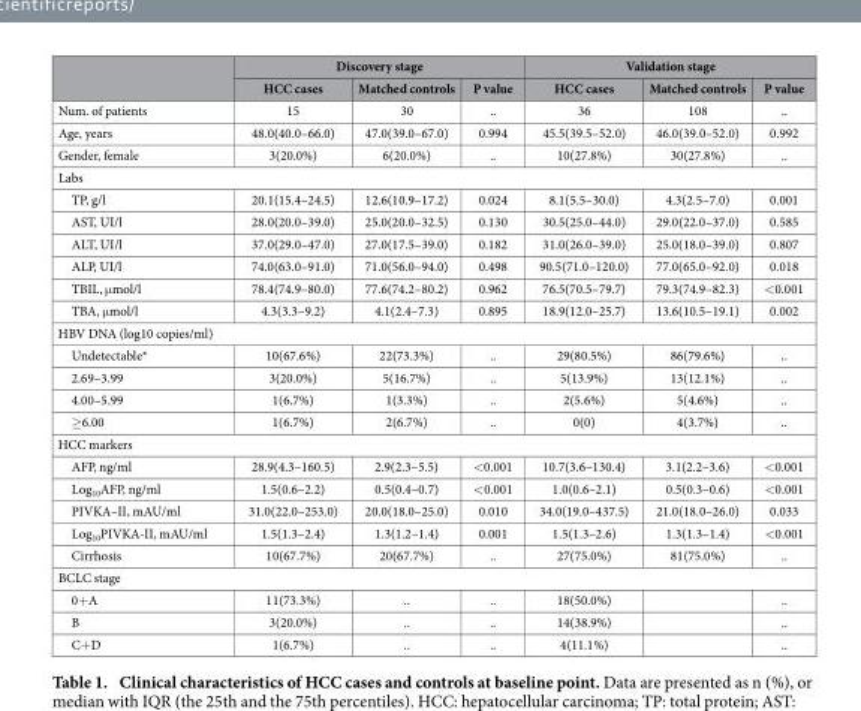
<table><thead><tr><td rowspan="2"></td><td colspan="3">Discovery stage</td><td colspan="3">Validation stage</td></tr><tr><td>HCC cases</td><td>Matched controls</td><td>P value</td><td>HCC cases</td><td>Matched controls</td><td>P value</td></tr></thead><tbody><tr><td>Num. of patients</td><td>15</td><td>30</td><td>..</td><td>36</td><td>108</td><td>..</td></tr><tr><td>Age, years</td><td>48.0(40.0–66.0)</td><td>47.0(39.0–67.0)</td><td>0.994</td><td>45.5(39.5–52.0)</td><td>46.0(39.0–52.0)</td><td>0.992</td></tr><tr><td>Gender, female</td><td>3(20.0%)</td><td>6(20.0%)</td><td>..</td><td>10(27.8%)</td><td>30(27.8%)</td><td>..</td></tr><tr><td colspan="7">Labs</td></tr><tr><td>TP, g/l</td><td>20.1(15.4–24.5)</td><td>12.6(10.9–17.2)</td><td>0.024</td><td>8.1(5.5–30.0)</td><td>4.3(2.5–7.0)</td><td>0.001</td></tr><tr><td>AST, UI/l</td><td>28.0(20.0–39.0)</td><td>25.0(20.0–32.5)</td><td>0.130</td><td>30.5(25.0–44.0)</td><td>29.0(22.0–37.0)</td><td>0.585</td></tr><tr><td>ALT, UI/l</td><td>37.0(29.0–47.0)</td><td>27.0(17.5–39.0)</td><td>0.182</td><td>31.0(26.0–39.0)</td><td>25.0(18.0–39.0)</td><td>0.807</td></tr><tr><td>ALP, UI/l</td><td>74.0(63.0–91.0)</td><td>71.0(56.0–94.0)</td><td>0.498</td><td>90.5(71.0–120.0)</td><td>77.0(65.0–92.0)</td><td>0.018</td></tr><tr><td>TBIL, μ mol/l</td><td>78.4(74.9–80.0)</td><td>77.6(74.2–80.2)</td><td>0.962</td><td>76.5(70.5–79.7)</td><td>79.3(74.9–82.3)</td><td>&lt; 0.001</td></tr><tr><td>TBA, μ mol/l</td><td>4.3(3.3–9.2)</td><td>4.1(2.4–7.3)</td><td>0.895</td><td>18.9(12.0–25.7)</td><td>13.6(10.5–19.1)</td><td>0.002</td></tr><tr><td colspan="7">HBV DNA (log10 copies/ml)</td></tr><tr><td>Undetectable*</td><td>10(67.6%)</td><td>22(73.3%)</td><td>..</td><td>29(80.5%)</td><td>86(79.6%)</td><td>..</td></tr><tr><td>2.69–3.99</td><td>3(20.0%)</td><td>5(16.7%)</td><td>..</td><td>5(13.9%)</td><td>13(12.1%)</td><td>..</td></tr><tr><td>4.00–5.99</td><td>1(6.7%)</td><td>1(3.3%)</td><td>..</td><td>2(5.6%)</td><td>5(4.6%)</td><td>..</td></tr><tr><td>≥ 6.00</td><td>1(6.7%)</td><td>2(6.7%)</td><td>..</td><td>0(0)</td><td>4(3.7%)</td><td>..</td></tr><tr><td colspan="7">HCC markers</td></tr><tr><td>AFP, ng/ml</td><td>28.9(4.3–160.5)</td><td>2.9(2.3–5.5)</td><td>&lt; 0.001</td><td>10.7(3.6–130.4)</td><td>3.1(2.2–3.6)</td><td>&lt; 0.001</td></tr><tr><td>Log<sub>10</sub>AFP, ng/ml</td><td>1.5(0.6–2.2)</td><td>0.5(0.4–0.7)</td><td>&lt; 0.001</td><td>1.0(0.6–2.1)</td><td>0.5(0.3–0.6)</td><td>&lt; 0.001</td></tr><tr><td>PIVKA–II, mAU/ml</td><td>31.0(22.0–253.0)</td><td>20.0(18.0–25.0)</td><td>0.010</td><td>34.0(19.0–437.5)</td><td>21.0(18.0–26.0)</td><td>0.033</td></tr><tr><td>Log<sub>10</sub>PIVKA-II, mAU/ml</td><td>1.5(1.3–2.4)</td><td>1.3(1.2–1.4)</td><td>0.001</td><td>1.5(1.3–2.6)</td><td>1.3(1.3–1.4)</td><td>&lt; 0.001</td></tr><tr><td>Cirrhosis</td><td>10(67.7%)</td><td>20(67.7%)</td><td>..</td><td>27(75.0%)</td><td>81(75.0%)</td><td>..</td></tr><tr><td colspan="7">BCLC stage</td></tr><tr><td>0+ A</td><td>11(73.3%)</td><td>..</td><td>..</td><td>18(50.0%)</td><td></td><td>..</td></tr><tr><td>B</td><td>3(20.0%)</td><td>..</td><td>..</td><td>14(38.9%)</td><td></td><td>..</td></tr><tr><td>C+ D</td><td>1(6.7%)</td><td>..</td><td>..</td><td>4(11.1%)</td><td></td><td>..</td></tr></tbody></table>